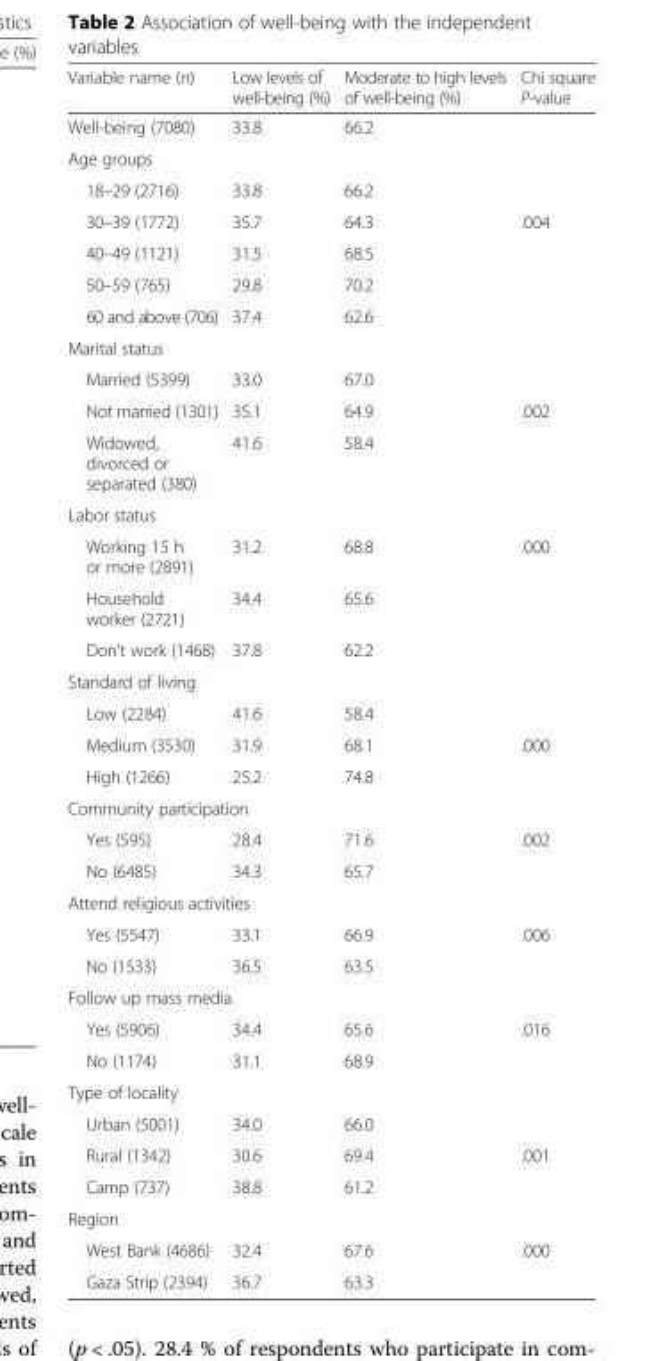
<table><thead><tr><td>Variable name (n)</td><td>Low levels of well-being (%)</td><td>Moderate to high levels of well-being (%)</td><td>Chi square P-value</td></tr></thead><tbody><tr><td>Well-being (7080)</td><td>33.8</td><td>66.2</td><td></td></tr><tr><td colspan="4">Age groups</td></tr><tr><td>18–29 (2716)</td><td>33.8</td><td>66.2</td><td></td></tr><tr><td>30–39 (1772)</td><td>35.7</td><td>64.3</td><td>.004</td></tr><tr><td>40–49 (1121)</td><td>31.5</td><td>68.5</td><td></td></tr><tr><td>50–59 (765)</td><td>29.8</td><td>70.2</td><td></td></tr><tr><td>60 and above (706)</td><td>37.4</td><td>62.6</td><td></td></tr><tr><td colspan="4">Marital status</td></tr><tr><td>Married (5399)</td><td>33.0</td><td>67.0</td><td></td></tr><tr><td>Not married (1301)</td><td>35.1</td><td>64.9</td><td>.002</td></tr><tr><td>Widowed, divorced or separated (380)</td><td>41.6</td><td>58.4</td><td></td></tr><tr><td colspan="4">Labor status</td></tr><tr><td>Working 15 h or more (2891)</td><td>31.2</td><td>68.8</td><td>.000</td></tr><tr><td>Household worker (2721)</td><td>34.4</td><td>65.6</td><td></td></tr><tr><td>Don’t work (1468)</td><td>37.8</td><td>62.2</td><td></td></tr><tr><td colspan="4">Standard of living</td></tr><tr><td>Low (2284)</td><td>41.6</td><td>58.4</td><td></td></tr><tr><td>Medium (3530)</td><td>31.9</td><td>68.1</td><td>.000</td></tr><tr><td>High (1266)</td><td>25.2</td><td>74.8</td><td></td></tr><tr><td colspan="4">Community participation</td></tr><tr><td>Yes (595)</td><td>28.4</td><td>71.6</td><td>.002</td></tr><tr><td>No (6485)</td><td>34.3</td><td>65.7</td><td></td></tr><tr><td colspan="4">Attend religious activities</td></tr><tr><td>Yes (5547)</td><td>33.1</td><td>66.9</td><td>.006</td></tr><tr><td>No (1533)</td><td>36.5</td><td>63.5</td><td></td></tr><tr><td colspan="4">Follow up mass media</td></tr><tr><td>Yes (5906)</td><td>34.4</td><td>65.6</td><td>.016</td></tr><tr><td>No (1174)</td><td>31.1</td><td>68.9</td><td></td></tr><tr><td colspan="4">Type of locality</td></tr><tr><td>Urban (5001)</td><td>34.0</td><td>66.0</td><td></td></tr><tr><td>Rural (1342)</td><td>30.6</td><td>69.4</td><td>.001</td></tr><tr><td>Camp (737)</td><td>38.8</td><td>61.2</td><td></td></tr><tr><td colspan="4">Region</td></tr><tr><td>West Bank (4686)</td><td>32.4</td><td>67.6</td><td>.000</td></tr><tr><td>Gaza Strip (2394)</td><td>36.7</td><td>63.3</td><td></td></tr></tbody></table>